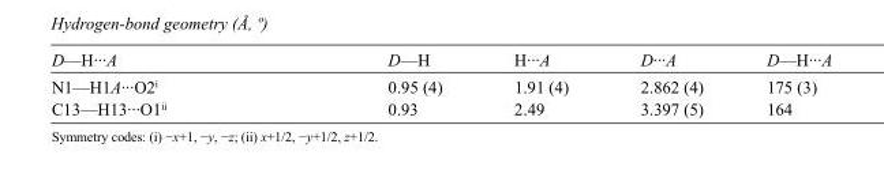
<table><tbody><tr><td>D—H···A</td><td>D—H</td><td>H···A</td><td>D···A</td><td>D—H···A</td></tr><tr><td>N1—H1A···O2<sup>i</sup></td><td>0.95 (4)</td><td>1.91 (4)</td><td>2.862 (4)</td><td>175 (3)</td></tr><tr><td>C13—H13···O1<sup>ii</sup></td><td>0.93</td><td>2.49</td><td>3.397 (5)</td><td>164</td></tr></tbody></table>